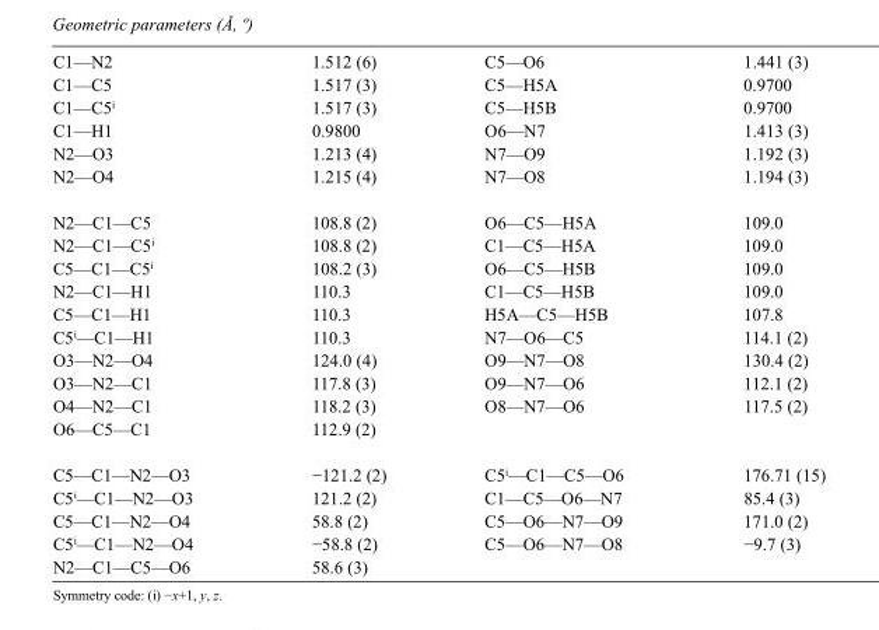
<table><tbody><tr><td>C1—N2</td><td>1.512 (6)</td><td>C5—O6</td><td>1.441 (3)</td></tr><tr><td>C1—C5</td><td>1.517 (3)</td><td>C5—H5A</td><td>0.9700</td></tr><tr><td>C1—C5<sup>i</sup></td><td>1.517 (3)</td><td>C5—H5B</td><td>0.9700</td></tr><tr><td>C1—H1</td><td>0.9800</td><td>O6—N7</td><td>1.413 (3)</td></tr><tr><td>N2—O3</td><td>1.213 (4)</td><td>N7—O9</td><td>1.192 (3)</td></tr><tr><td>N2—O4</td><td>1.215 (4)</td><td>N7—O8</td><td>1.194 (3)</td></tr><tr><td>N2—C1—C5</td><td>108.8 (2)</td><td>O6—C5—H5A</td><td>109.0</td></tr><tr><td>N2—C1—C5<sup>i</sup></td><td>108.8 (2)</td><td>C1—C5—H5A</td><td>109.0</td></tr><tr><td>C5—C1—C5<sup>i</sup></td><td>108.2 (3)</td><td>O6—C5—H5B</td><td>109.0</td></tr><tr><td>N2—C1—H1</td><td>110.3</td><td>C1—C5—H5B</td><td>109.0</td></tr><tr><td>C5—C1—H1</td><td>110.3</td><td>H5A—C5—H5B</td><td>107.8</td></tr><tr><td>C5<sup>i</sup>—C1—H1</td><td>110.3</td><td>N7—O6—C5</td><td>114.1 (2)</td></tr><tr><td>O3—N2—O4</td><td>124.0 (4)</td><td>O9—N7—O8</td><td>130.4 (2)</td></tr><tr><td>O3—N2—C1</td><td>117.8 (3)</td><td>O9—N7—O6</td><td>112.1 (2)</td></tr><tr><td>O4—N2—C1</td><td>118.2 (3)</td><td>O8—N7—O6</td><td>117.5 (2)</td></tr><tr><td>O6—C5—C1</td><td>112.9 (2)</td><td></td><td></td></tr><tr><td>C5—C1—N2—O3</td><td>−121.2 (2)</td><td>C5<sup>i</sup>—C1—C5—O6</td><td>176.71 (15)</td></tr><tr><td>C5<sup>i</sup>—C1—N2—O3</td><td>121.2 (2)</td><td>C1—C5—O6—N7</td><td>85.4 (3)</td></tr><tr><td>C5—C1—N2—O4</td><td>58.8 (2)</td><td>C5—O6—N7—O9</td><td>171.0 (2)</td></tr><tr><td>C5<sup>i</sup>—C1—N2—O4</td><td>−58.8 (2)</td><td>C5—O6—N7—O8</td><td>−9.7 (3)</td></tr><tr><td>N2—C1—C5—O6</td><td>58.6 (3)</td><td></td><td></td></tr></tbody></table>